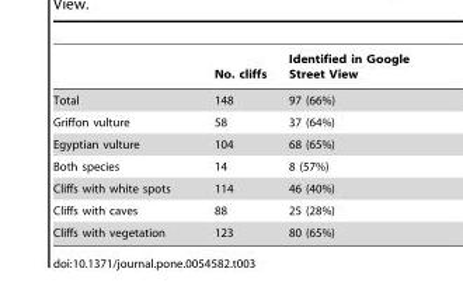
<table><thead><tr><td></td><td>No. cliffs</td><td>Identified in Google Street View</td></tr></thead><tbody><tr><td>Total</td><td>148</td><td>97 (66%)</td></tr><tr><td>Griffon vulture</td><td>58</td><td>37 (64%)</td></tr><tr><td>Egyptian vulture</td><td>104</td><td>68 (65%)</td></tr><tr><td>Both species</td><td>14</td><td>8 (57%)</td></tr><tr><td>Cliffs with white spots</td><td>114</td><td>46 (40%)</td></tr><tr><td>Cliffs with caves</td><td>88</td><td>25 (28%)</td></tr><tr><td>Cliffs with vegetation</td><td>123</td><td>80 (65%)</td></tr></tbody></table>